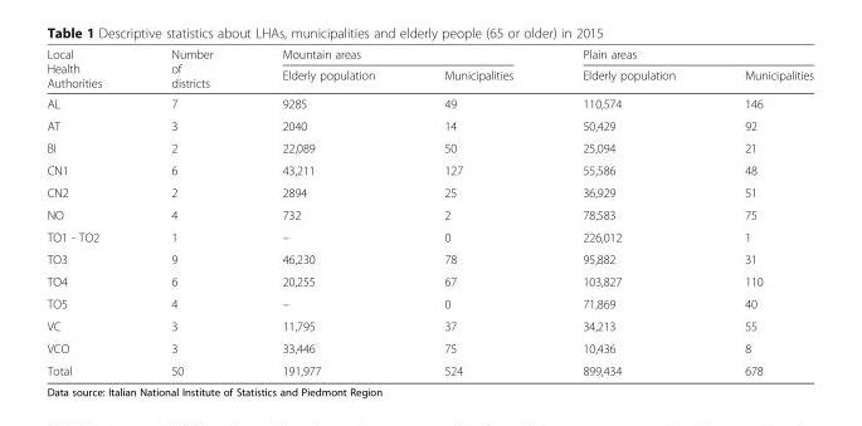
<table><thead><tr><td rowspan="2">Local Health Authorities</td><td rowspan="2">Number of districts</td><td colspan="2">Mountain areas</td><td colspan="2">Plain areas</td></tr><tr><td>Elderly population</td><td>Municipalities</td><td>Elderly population</td><td>Municipalities</td></tr></thead><tbody><tr><td>AL</td><td>7</td><td>9285</td><td>49</td><td>110,574</td><td>146</td></tr><tr><td>AT</td><td>3</td><td>2040</td><td>14</td><td>50,429</td><td>92</td></tr><tr><td>BI</td><td>2</td><td>22,089</td><td>50</td><td>25,094</td><td>21</td></tr><tr><td>CN1</td><td>6</td><td>43,211</td><td>127</td><td>55,586</td><td>48</td></tr><tr><td>CN2</td><td>2</td><td>2894</td><td>25</td><td>36,929</td><td>51</td></tr><tr><td>NO</td><td>4</td><td>732</td><td>2</td><td>78,583</td><td>75</td></tr><tr><td>TO1 - TO2</td><td>1</td><td>–</td><td>0</td><td>226,012</td><td>1</td></tr><tr><td>TO3</td><td>9</td><td>46,230</td><td>78</td><td>95,882</td><td>31</td></tr><tr><td>TO4</td><td>6</td><td>20,255</td><td>67</td><td>103,827</td><td>110</td></tr><tr><td>TO5</td><td>4</td><td>–</td><td>0</td><td>71,869</td><td>40</td></tr><tr><td>VC</td><td>3</td><td>11,795</td><td>37</td><td>34,213</td><td>55</td></tr><tr><td>VCO</td><td>3</td><td>33,446</td><td>75</td><td>10,436</td><td>8</td></tr><tr><td>Total</td><td>50</td><td>191,977</td><td>524</td><td>899,434</td><td>678</td></tr></tbody></table>